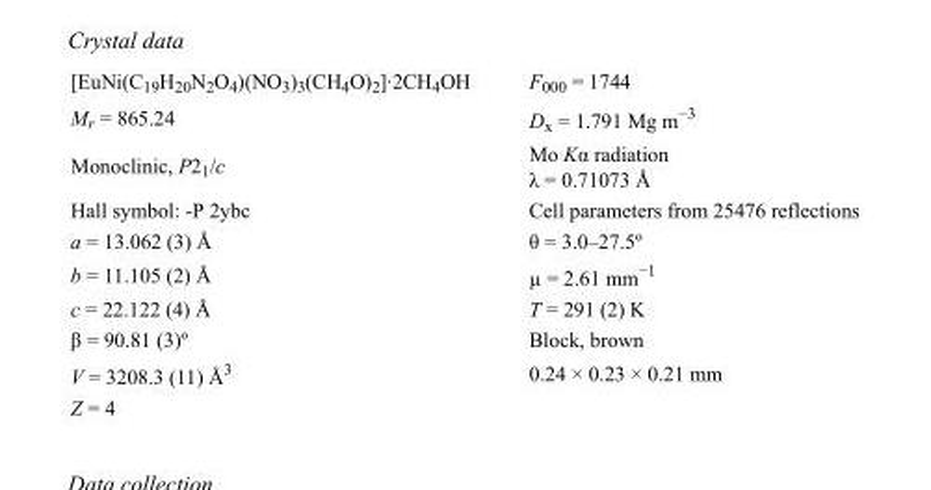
<table><tbody><tr><td>[EuNi(C<sub>19</sub>H<sub>20</sub>N<sub>2</sub>O<sub>4</sub>)(NO<sub>3</sub>)<sub>3</sub>(CH<sub>4</sub>O)<sub>2</sub>]·2CH<sub>4</sub>OH</td><td>F000 = 1744</td></tr><tr><td>M<sub>r</sub> = 865.24</td><td>D<sub>x</sub> = 1.791 Mg m<sup>−3</sup></td></tr><tr><td>Monoclinic, P2<sub>1</sub>/c</td><td>Mo Kα radiation λ = 0.71073 Å</td></tr><tr><td>Hall symbol: -P 2ybc</td><td>Cell parameters from 25476 reflections</td></tr><tr><td>a = 13.062 (3) Å</td><td>θ = 3.0–27.5º</td></tr><tr><td>b = 11.105 (2) Å</td><td>µ = 2.61 mm<sup>−1</sup></td></tr><tr><td>c = 22.122 (4) Å</td><td>T = 291 (2) K</td></tr><tr><td>β = 90.81 (3)º</td><td>Block, brown</td></tr><tr><td>V = 3208.3 (11) Å<sup>3</sup></td><td>0.24 × 0.23 × 0.21 mm</td></tr><tr><td>Z = 4</td><td></td></tr></tbody></table>